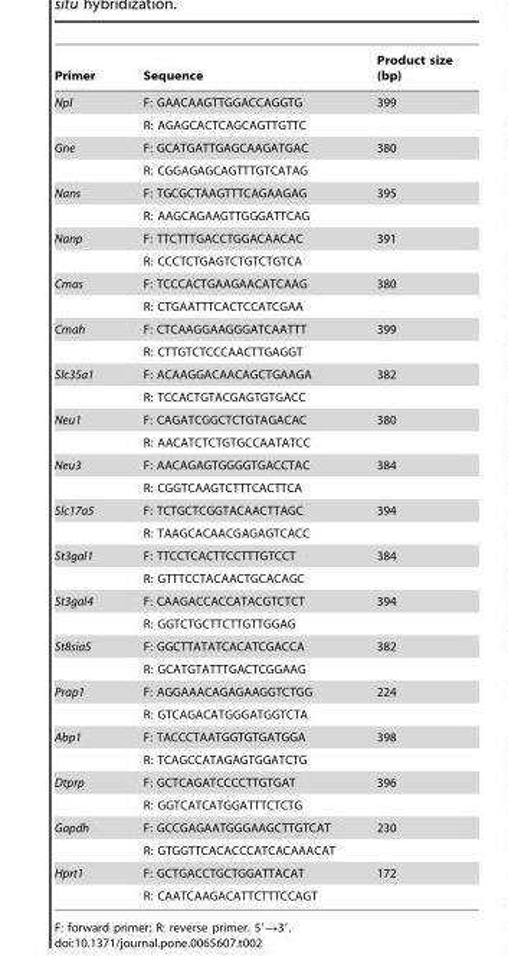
<table><thead><tr><td>Primer</td><td>Sequence</td><td>Product size (bp)</td></tr></thead><tbody><tr><td rowspan="2">Npl</td><td>F: GAACAAGTTGGACCAGGTG</td><td>399</td></tr><tr><td>R: AGAGCACTCAGCAGTTGTTC</td><td></td></tr><tr><td rowspan="2">Gne</td><td>F: GCATGATTGAGCAAGATGAC</td><td>380</td></tr><tr><td>R: CGGAGAGCAGTTTGTCATAG</td><td></td></tr><tr><td rowspan="2">Nans</td><td>F: TGCGCTAAGTTTCAGAAGAG</td><td>395</td></tr><tr><td>R: AAGCAGAAGTTGGGATTCAG</td><td></td></tr><tr><td rowspan="2">Nanp</td><td>F: TTCTTTGACCTGGACAACAC</td><td>391</td></tr><tr><td>R: CCCTCTGAGTCTGTCTGTCA</td><td></td></tr><tr><td rowspan="2">Cmas</td><td>F: TCCCACTGAAGAACATCAAG</td><td>380</td></tr><tr><td>R: CTGAATTTCACTCCATCGAA</td><td></td></tr><tr><td rowspan="2">Cmah</td><td>F: CTCAAGGAAGGGATCAATTT</td><td>399</td></tr><tr><td>R: CTTGTCTCCCAACTTGAGGT</td><td></td></tr><tr><td rowspan="2">Slc35a1</td><td>F: ACAAGGACAACAGCTGAAGA</td><td>382</td></tr><tr><td>R: TCCACTGTACGAGTGTGACC</td><td></td></tr><tr><td rowspan="2">Neu1</td><td>F: CAGATCGGCTCTGTAGACAC</td><td>380</td></tr><tr><td>R: AACATCTCTGTGCCAATATCC</td><td></td></tr><tr><td rowspan="2">Neu3</td><td>F: AACAGAGTGGGGTGACCTAC</td><td>384</td></tr><tr><td>R: CGGTCAAGTCTTTCACTTCA</td><td></td></tr><tr><td rowspan="2">Slc17a5</td><td>F: TCTGCTCGGTACAACTTAGC</td><td>394</td></tr><tr><td>R: TAAGCACAACGAGAGTCACC</td><td></td></tr><tr><td rowspan="2">St3gal1</td><td>F: TTCCTCACTTCCTTTGTCCT</td><td>384</td></tr><tr><td>R: GTTTCCTACAACTGCACAGC</td><td></td></tr><tr><td rowspan="2">St3gal4</td><td>F: CAAGACCACCATACGTCTCT</td><td>394</td></tr><tr><td>R: GGTCTGCTTCTTGTTGGAG</td><td></td></tr><tr><td rowspan="2">St8sia5</td><td>F: GGCTTATATCACATCGACCA</td><td>382</td></tr><tr><td>R: GCATGTATTTGACTCGGAAG</td><td></td></tr><tr><td rowspan="2">Prap1</td><td>F: AGGAAACAGAGAAGGTCTGG</td><td>224</td></tr><tr><td>R: GTCAGACATGGGATGGTCTA</td><td></td></tr><tr><td rowspan="2">Abp1</td><td>F: TACCCTAATGGTGTGATGGA</td><td>398</td></tr><tr><td>R: TCAGCCATAGAGTGGATCTG</td><td></td></tr><tr><td rowspan="2">Dtprp</td><td>F: GCTCAGATCCCCTTGTGAT</td><td>396</td></tr><tr><td>R: GGTCATCATGGATTTCTCTG</td><td></td></tr><tr><td rowspan="2">Gapdh</td><td>F: GCCGAGAATGGGAAGCTTGTCAT</td><td>230</td></tr><tr><td>R: GTGGTTCACACCCATCACAAACAT</td><td></td></tr><tr><td rowspan="2">Hprt1</td><td>F: GCTGACCTGCTGGATTACAT</td><td>172</td></tr><tr><td>R: CAATCAAGACATTCTTTCCAGT</td><td></td></tr></tbody></table>